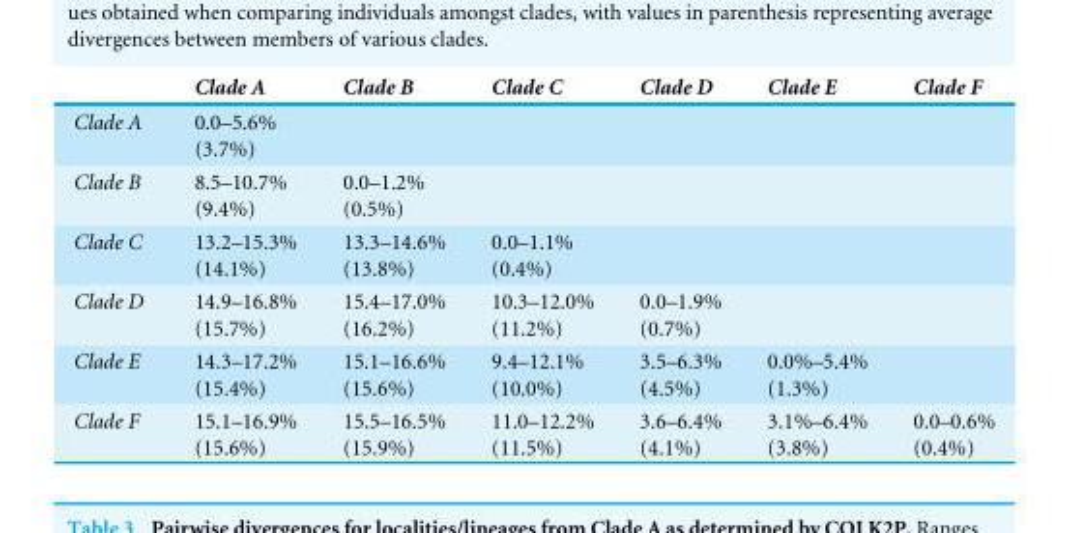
<table><thead><tr><td></td><td>Clade A</td><td>Clade B</td><td>Clade C</td><td>Clade D</td><td>Clade E</td><td>Clade F</td></tr></thead><tbody><tr><td>Clade A</td><td>0.0–5.6% (3.7%)</td><td></td><td></td><td></td><td></td><td></td></tr><tr><td>Clade B</td><td>8.5–10.7% (9.4%)</td><td>0.0–1.2% (0.5%)</td><td></td><td></td><td></td><td></td></tr><tr><td>Clade C</td><td>13.2–15.3% (14.1%)</td><td>13.3–14.6% (13.8%)</td><td>0.0–1.1% (0.4%)</td><td></td><td></td><td></td></tr><tr><td>Clade D</td><td>14.9–16.8% (15.7%)</td><td>15.4–17.0% (16.2%)</td><td>10.3–12.0% (11.2%)</td><td>0.0–1.9% (0.7%)</td><td></td><td></td></tr><tr><td>Clade E</td><td>14.3–17.2% (15.4%)</td><td>15.1–16.6% (15.6%)</td><td>9.4–12.1% (10.0%)</td><td>3.5–6.3% (4.5%)</td><td>0.0%–5.4% (1.3%)</td><td></td></tr><tr><td>Clade F</td><td>15.1–16.9% (15.6%)</td><td>15.5–16.5% (15.9%)</td><td>11.0–12.2% (11.5%)</td><td>3.6–6.4% (4.1%)</td><td>3.1%–6.4% (3.8%)</td><td>0.0–0.6% (0.4%)</td></tr></tbody></table>